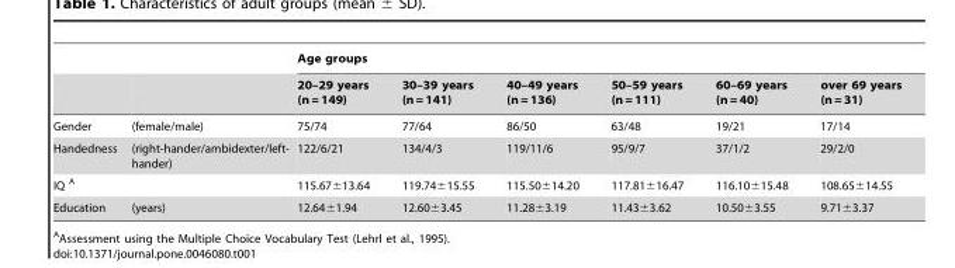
<table><thead><tr><td rowspan="2"></td><td rowspan="2"></td><td colspan="6">Age groups</td></tr><tr><td>20–29 years (n = 149)</td><td>30–39 years (n = 141)</td><td>40–49 years (n = 136)</td><td>50–59 years (n = 111)</td><td>60–69 years (n = 40)</td><td>over 69 years (n = 31)</td></tr></thead><tbody><tr><td>Gender</td><td>(female/male)</td><td>75/74</td><td>77/64</td><td>86/50</td><td>63/48</td><td>19/21</td><td>17/14</td></tr><tr><td>Handedness</td><td>(right-hander/ambidexter/left- hander)</td><td>122/6/21</td><td>134/4/3</td><td>119/11/6</td><td>95/9/7</td><td>37/1/2</td><td>29/2/0</td></tr><tr><td>IQ A</td><td></td><td>115.67±13.64</td><td>119.74±15.55</td><td>115.50±14.20</td><td>117.81±16.47</td><td>116.10±15.48</td><td>108.65±14.55</td></tr><tr><td>Education</td><td>(years)</td><td>12.64±1.94</td><td>12.60±3.45</td><td>11.28±3.19</td><td>11.43±3.62</td><td>10.50±3.55</td><td>9.71±3.37</td></tr></tbody></table>